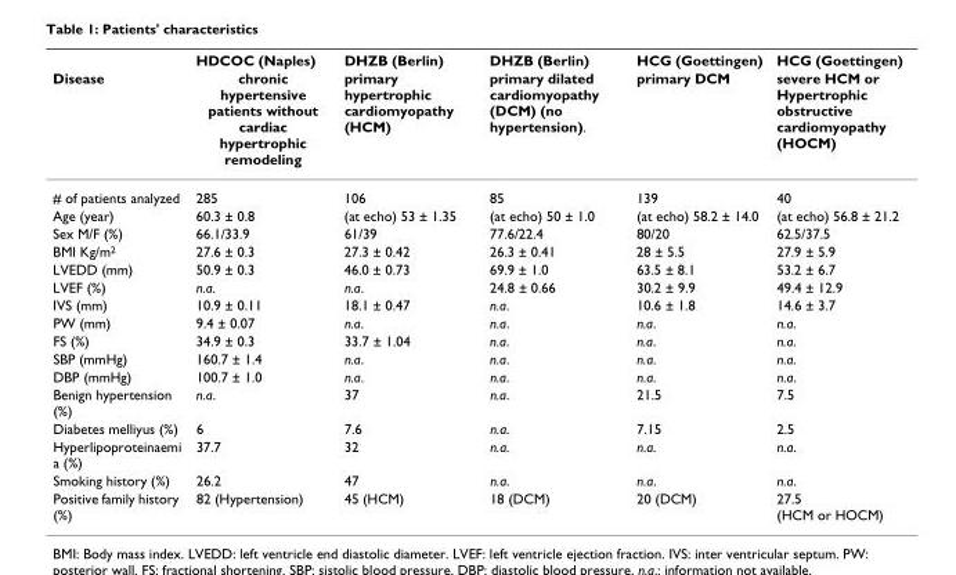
<table><thead><tr><td rowspan="2">Disease</td><td rowspan="2">HDCOC (Naples) chronic hypertensive patients without cardiac hypertrophic remodeling</td><td rowspan="2">DHZB (Berlin) primary hypertrophic cardiomyopathy (HCM)</td><td rowspan="2">DHZB (Berlin) primary dilated cardiomyopathy (DCM) (no hypertension).</td><td rowspan="2">HCG (Goettingen) primary DCM</td><td rowspan="2">HCG (Goettingen) severe HCM or Hypertrophic obstructive cardiomyopathy (HOCM)</td></tr><tr></tr></thead><tbody><tr><td># of patients analyzed</td><td>285</td><td>106</td><td>85</td><td>139</td><td>40</td></tr><tr><td>Age (year)</td><td>60.3 ± 0.8</td><td>(at echo) 53 ± 1.35</td><td>(at echo) 50 ± 1.0</td><td>(at echo) 58.2 ± 14.0</td><td>(at echo) 56.8 ± 21.2</td></tr><tr><td>Sex M/F (%)</td><td>66.1/33.9</td><td>61/39</td><td>77.6/22.4</td><td>80/20</td><td>62.5/37.5</td></tr><tr><td>BMI Kg/m<sup>2</sup></td><td>27.6 ± 0.3</td><td>27.3 ± 0.42</td><td>26.3 ± 0.41</td><td>28 ± 5.5</td><td>27.9 ± 5.9</td></tr><tr><td>LVEDD (mm)</td><td>50.9 ± 0.3</td><td>46.0 ± 0.73</td><td>69.9 ± 1.0</td><td>63.5 ± 8.1</td><td>53.2 ± 6.7</td></tr><tr><td>LVEF (%)</td><td>n.a.</td><td>n.a.</td><td>24.8 ± 0.66</td><td>30.2 ± 9.9</td><td>49.4 ± 12.9</td></tr><tr><td>IVS (mm)</td><td>10.9 ± 0.11</td><td>18.1 ± 0.47</td><td>n.a.</td><td>10.6 ± 1.8</td><td>14.6 ± 3.7</td></tr><tr><td>PW (mm)</td><td>9.4 ± 0.07</td><td>n.a.</td><td>n.a.</td><td>n.a.</td><td>n.a.</td></tr><tr><td>FS (%)</td><td>34.9 ± 0.3</td><td>33.7 ± 1.04</td><td>n.a.</td><td>n.a.</td><td>n.a.</td></tr><tr><td>SBP (mmHg)</td><td>160.7 ± 1.4</td><td>n.a.</td><td>n.a.</td><td>n.a.</td><td>n.a.</td></tr><tr><td>DBP (mmHg)</td><td>100.7 ± 1.0</td><td>n.a.</td><td>n.a.</td><td>n.a.</td><td>n.a.</td></tr><tr><td>Benign hypertension (%)</td><td>n.a.</td><td>37</td><td>n.a.</td><td>21.5</td><td>7.5</td></tr><tr><td>Diabetes melliyus (%)</td><td>6</td><td>7.6</td><td>n.a.</td><td>7.15</td><td>2.5</td></tr><tr><td>Hyperlipoproteinaemi a (%)</td><td>37.7</td><td>32</td><td>n.a.</td><td>n.a.</td><td>n.a.</td></tr><tr><td>Smoking history (%)</td><td>26.2</td><td>47</td><td>n.a.</td><td>n.a.</td><td>n.a.</td></tr><tr><td>Positive family history (%)</td><td>82 (Hypertension)</td><td>45 (HCM)</td><td>18 (DCM)</td><td>20 (DCM)</td><td>27.5 (HCM or HOCM)</td></tr></tbody></table>